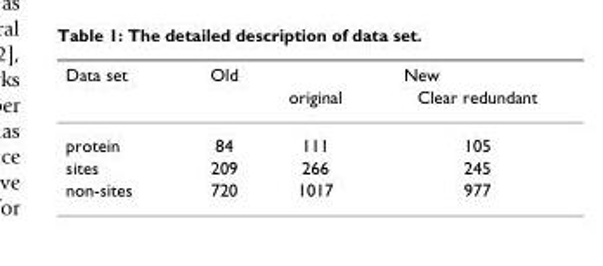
<table><thead><tr><td rowspan="2">Data set</td><td rowspan="2">Old</td><td colspan="2">New</td></tr><tr><td>original</td><td>Clear redundant</td></tr></thead><tbody><tr><td>protein</td><td>84</td><td>111</td><td>105</td></tr><tr><td>sites</td><td>209</td><td>266</td><td>245</td></tr><tr><td>non-sites</td><td>720</td><td>1017</td><td>977</td></tr></tbody></table>